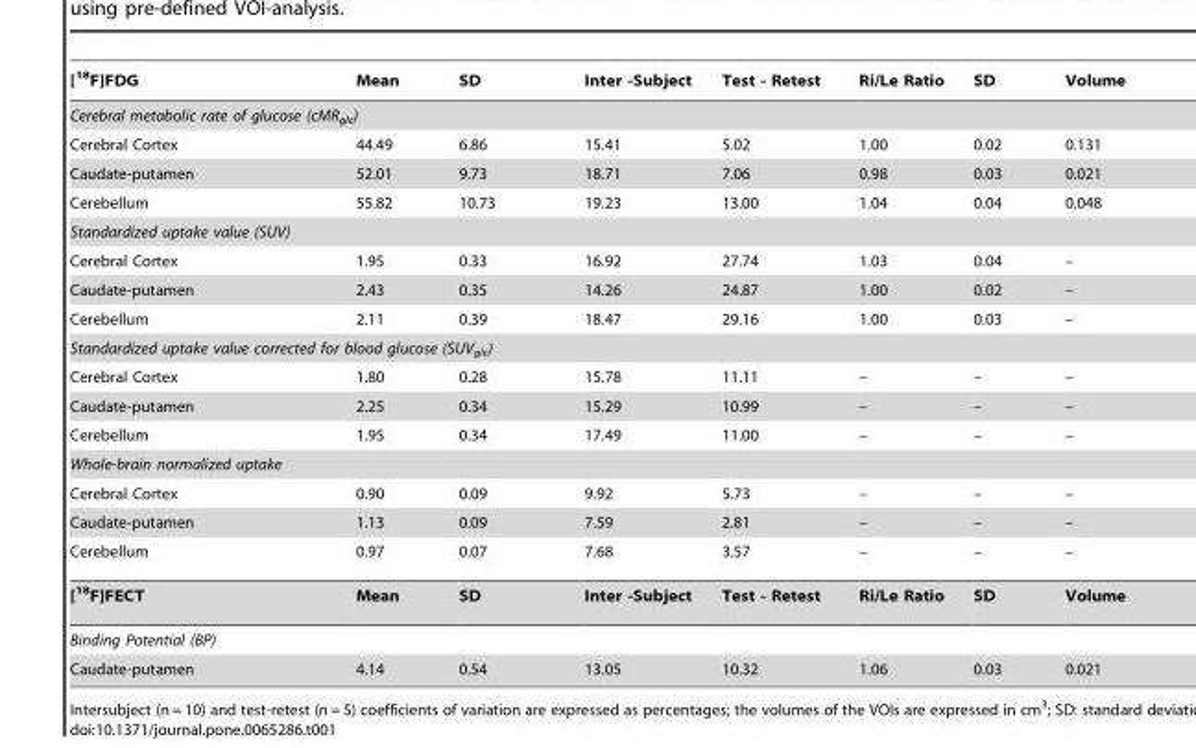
<table><thead><tr><td>[<sup>18</sup>F]FDG</td><td>Mean</td><td>SD</td><td>Inter -Subject</td><td>Test - Retest</td><td>Ri/Le Ratio</td><td>SD</td><td>Volume</td></tr></thead><tbody><tr><td colspan="8">Cerebral metabolic rate of glucose (cMR<sub>glc</sub>)</td></tr><tr><td>Cerebral Cortex</td><td>44.49</td><td>6.86</td><td>15.41</td><td>5.02</td><td>1.00</td><td>0.02</td><td>0.131</td></tr><tr><td>Caudate-putamen</td><td>52.01</td><td>9.73</td><td>18.71</td><td>7.06</td><td>0.98</td><td>0.03</td><td>0.021</td></tr><tr><td>Cerebellum</td><td>55.82</td><td>10.73</td><td>19.23</td><td>13.00</td><td>1.04</td><td>0.04</td><td>0.048</td></tr><tr><td colspan="8">Standardized uptake value (SUV)</td></tr><tr><td>Cerebral Cortex</td><td>1.95</td><td>0.33</td><td>16.92</td><td>27.74</td><td>1.03</td><td>0.04</td><td>–</td></tr><tr><td>Caudate-putamen</td><td>2.43</td><td>0.35</td><td>14.26</td><td>24.87</td><td>1.00</td><td>0.02</td><td>–</td></tr><tr><td>Cerebellum</td><td>2.11</td><td>0.39</td><td>18.47</td><td>29.16</td><td>1.00</td><td>0.03</td><td>–</td></tr><tr><td colspan="8">Standardized uptake value corrected for blood glucose (SUV<sub>glc</sub>)</td></tr><tr><td>Cerebral Cortex</td><td>1.80</td><td>0.28</td><td>15.78</td><td>11.11</td><td>–</td><td>–</td><td>–</td></tr><tr><td>Caudate-putamen</td><td>2.25</td><td>0.34</td><td>15.29</td><td>10.99</td><td>–</td><td>–</td><td>–</td></tr><tr><td>Cerebellum</td><td>1.95</td><td>0.34</td><td>17.49</td><td>11.00</td><td>–</td><td>–</td><td>–</td></tr><tr><td colspan="8">Whole-brain normalized uptake</td></tr><tr><td>Cerebral Cortex</td><td>0.90</td><td>0.09</td><td>9.92</td><td>5.73</td><td>–</td><td>–</td><td>–</td></tr><tr><td>Caudate-putamen</td><td>1.13</td><td>0.09</td><td>7.59</td><td>2.81</td><td>–</td><td>–</td><td>–</td></tr><tr><td>Cerebellum</td><td>0.97</td><td>0.07</td><td>7.68</td><td>3.57</td><td>–</td><td>–</td><td>–</td></tr><tr><td>[<sup>18</sup>F]FECT</td><td>Mean</td><td>SD</td><td>Inter -Subject</td><td>Test - Retest</td><td>Ri/Le Ratio</td><td>SD</td><td>Volume</td></tr><tr><td colspan="8">Binding Potential (BP)</td></tr><tr><td>Caudate-putamen</td><td>4.14</td><td>0.54</td><td>13.05</td><td>10.32</td><td>1.06</td><td>0.03</td><td>0.021</td></tr></tbody></table>